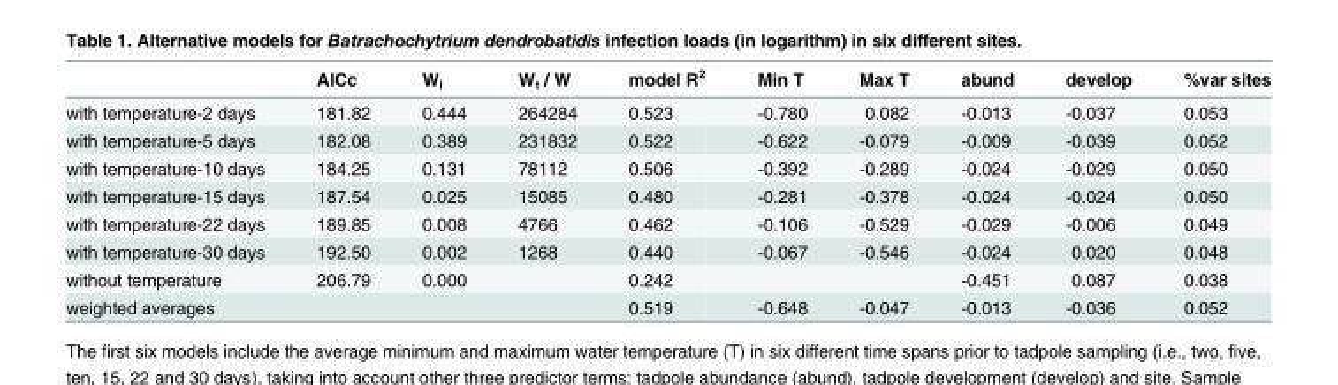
<table><thead><tr><td></td><td>AICc</td><td>W<sub>i</sub></td><td>W<sub>t</sub> / W</td><td>model R<sup>2</sup></td><td>Min T</td><td>Max T</td><td>abund</td><td>develop</td><td>%var sites</td></tr></thead><tbody><tr><td>with temperature-2 days</td><td>181.82</td><td>0.444</td><td>264284</td><td>0.523</td><td>-0.780</td><td>0.082</td><td>-0.013</td><td>-0.037</td><td>0.053</td></tr><tr><td>with temperature-5 days</td><td>182.08</td><td>0.389</td><td>231832</td><td>0.522</td><td>-0.622</td><td>-0.079</td><td>-0.009</td><td>-0.039</td><td>0.052</td></tr><tr><td>with temperature-10 days</td><td>184.25</td><td>0.131</td><td>78112</td><td>0.506</td><td>-0.392</td><td>-0.289</td><td>-0.024</td><td>-0.029</td><td>0.050</td></tr><tr><td>with temperature-15 days</td><td>187.54</td><td>0.025</td><td>15085</td><td>0.480</td><td>-0.281</td><td>-0.378</td><td>-0.024</td><td>-0.024</td><td>0.050</td></tr><tr><td>with temperature-22 days</td><td>189.85</td><td>0.008</td><td>4766</td><td>0.462</td><td>-0.106</td><td>-0.529</td><td>-0.029</td><td>-0.006</td><td>0.049</td></tr><tr><td>with temperature-30 days</td><td>192.50</td><td>0.002</td><td>1268</td><td>0.440</td><td>-0.067</td><td>-0.546</td><td>-0.024</td><td>0.020</td><td>0.048</td></tr><tr><td>without temperature</td><td>206.79</td><td>0.000</td><td></td><td>0.242</td><td></td><td></td><td>-0.451</td><td>0.087</td><td>0.038</td></tr><tr><td>weighted averages</td><td></td><td></td><td></td><td>0.519</td><td>-0.648</td><td>-0.047</td><td>-0.013</td><td>-0.036</td><td>0.052</td></tr></tbody></table>